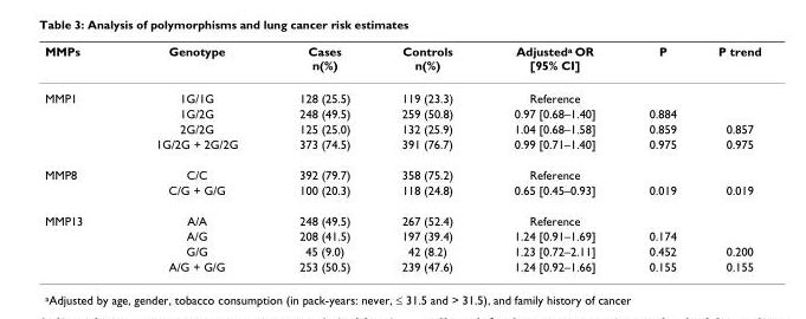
<table><thead><tr><td>MMPs</td><td>Genotype</td><td>Cases n(%)</td><td>Controls n(%)</td><td>Adjusted<sup>a</sup> OR [95% CI]</td><td>P</td><td>P trend</td></tr></thead><tbody><tr><td rowspan="4">MMP1</td><td>1G/1G</td><td>128 (25.5)</td><td>119 (23.3)</td><td>Reference</td><td></td><td></td></tr><tr><td>1G/2G</td><td>248 (49.5)</td><td>259 (50.8)</td><td>0.97 [0.68–1.40]</td><td>0.884</td><td></td></tr><tr><td>2G/2G</td><td>125 (25.0)</td><td>132 (25.9)</td><td>1.04 [0.68–1.58]</td><td>0.859</td><td>0.857</td></tr><tr><td>1G/2G + 2G/2G</td><td>373 (74.5)</td><td>391 (76.7)</td><td>0.99 [0.71–1.40]</td><td>0.975</td><td>0.975</td></tr><tr><td rowspan="2">MMP8</td><td>C/C</td><td>392 (79.7)</td><td>358 (75.2)</td><td>Reference</td><td></td><td></td></tr><tr><td>C/G + G/G</td><td>100 (20.3)</td><td>118 (24.8)</td><td>0.65 [0.45–0.93]</td><td>0.019</td><td>0.019</td></tr><tr><td rowspan="4">MMP13</td><td>A/A</td><td>248 (49.5)</td><td>267 (52.4)</td><td>Reference</td><td></td><td></td></tr><tr><td>A/G</td><td>208 (41.5)</td><td>197 (39.4)</td><td>1.24 [0.91–1.69]</td><td>0.174</td><td></td></tr><tr><td>G/G</td><td>45 (9.0)</td><td>42 (8.2)</td><td>1.23 [0.72–2.11]</td><td>0.452</td><td>0.200</td></tr><tr><td>A/G + G/G</td><td>253 (50.5)</td><td>239 (47.6)</td><td>1.24 [0.92–1.66]</td><td>0.155</td><td>0.155</td></tr></tbody></table>